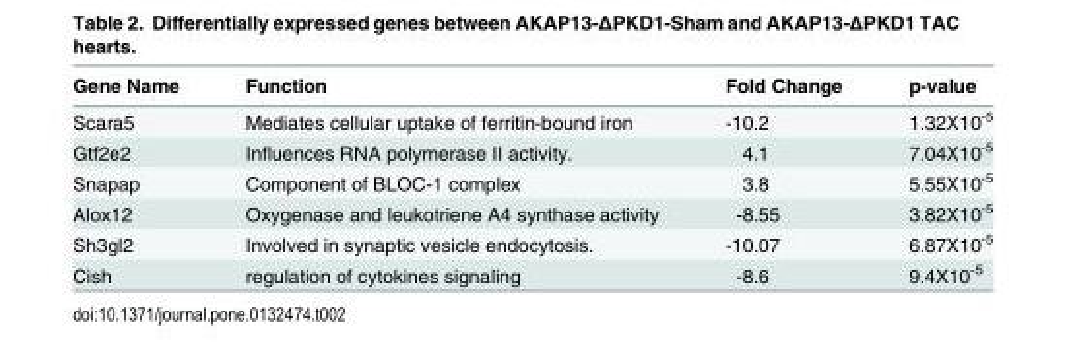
<table><thead><tr><td>Gene Name</td><td>Function</td><td>Fold Change</td><td>p-value</td></tr></thead><tbody><tr><td>Scara5</td><td>Mediates cellular uptake of ferritin-bound iron</td><td>-10.2</td><td>1.32X10<sup>-5</sup></td></tr><tr><td>Gtf2e2</td><td>Influences RNA polymerase II activity.</td><td>4.1</td><td>7.04X10<sup>-5</sup></td></tr><tr><td>Snapap</td><td>Component of BLOC-1 complex</td><td>3.8</td><td>5.55X10<sup>-5</sup></td></tr><tr><td>Alox12</td><td>Oxygenase and leukotriene A4 synthase activity</td><td>-8.55</td><td>3.82X10<sup>-5</sup></td></tr><tr><td>Sh3gl2</td><td>Involved in synaptic vesicle endocytosis.</td><td>-10.07</td><td>6.87X10<sup>-5</sup></td></tr><tr><td>Cish</td><td>regulation of cytokines signaling</td><td>-8.6</td><td>9.4X10<sup>-5</sup></td></tr></tbody></table>